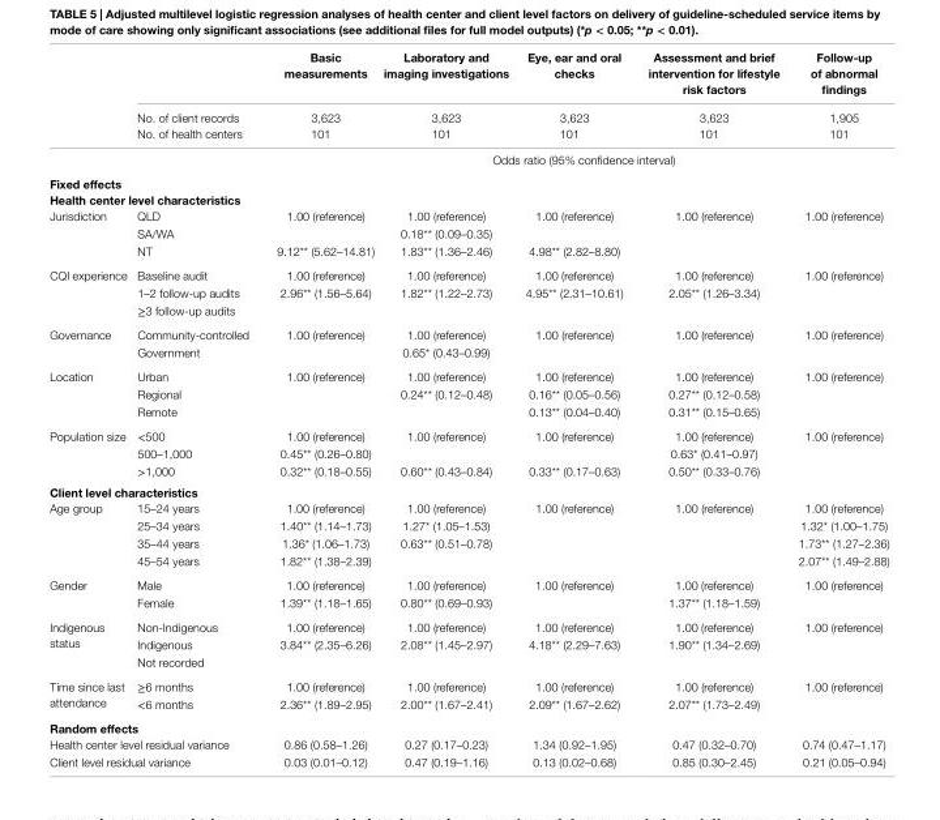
<table><thead><tr><td></td><td></td><td>Basic measurements</td><td>laboratory and imaging investigations</td><td>eye, ear and oral checks</td><td>assessment and brief intervention for lifestyle risk factors</td><td>Follow-up of abnormal findings</td></tr></thead><tbody><tr><td></td><td>No. of client records</td><td>3,623</td><td>3,623</td><td>3,623</td><td>3,623</td><td>1,905</td></tr><tr><td></td><td>No. of health centers</td><td>101</td><td>101</td><td>101</td><td>101</td><td>101</td></tr><tr><td colspan="2"></td><td colspan="5">Odds ratio (95% confidence interval)</td></tr><tr><td colspan="7">Fixed effects</td></tr><tr><td colspan="7">health center level characteristics</td></tr><tr><td rowspan="3">Jurisdiction</td><td>QLD</td><td>1.00 (reference)</td><td>1.00 (reference)</td><td>1.00 (reference)</td><td>1.00 (reference)</td><td>1.00 (reference)</td></tr><tr><td>SA/WA</td><td></td><td>0.18** (0.09–0.35)</td><td></td><td></td><td></td></tr><tr><td>NT</td><td>9.12** (5.62–14.81)</td><td>1.83** (1.36–2.46)</td><td>4.98** (2.82–8.80)</td><td></td><td></td></tr><tr><td rowspan="3">CQI experience</td><td>Baseline audit</td><td>1.00 (reference)</td><td>1.00 (reference)</td><td>1.00 (reference)</td><td>1.00 (reference)</td><td>1.00 (reference)</td></tr><tr><td>1–2 follow-up audits</td><td>2.96** (1.56–5.64)</td><td>1.82** (1.22–2.73)</td><td>4.95** (2.31–10.61)</td><td>2.05** (1.26–3.34)</td><td></td></tr><tr><td>≥3 follow-up audits</td><td></td><td></td><td></td><td></td><td></td></tr><tr><td rowspan="2">Governance</td><td>Community-controlled</td><td>1.00 (reference)</td><td>1.00 (reference)</td><td>1.00 (reference)</td><td>1.00 (reference)</td><td>1.00 (reference)</td></tr><tr><td>Government</td><td></td><td>0.65* (0.43–0.99)</td><td></td><td></td><td></td></tr><tr><td rowspan="3">Location</td><td>Urban</td><td>1.00 (reference)</td><td>1.00 (reference)</td><td>1.00 (reference)</td><td>1.00 (reference)</td><td>1.00 (reference)</td></tr><tr><td>Regional</td><td></td><td>0.24** (0.12–0.48)</td><td>0.16** (0.05–0.56)</td><td>0.27** (0.12–0.58)</td><td></td></tr><tr><td>Remote</td><td></td><td></td><td>0.13** (0.04–0.40)</td><td>0.31** (0.15–0.65)</td><td></td></tr><tr><td rowspan="3">Population size</td><td>&lt;500</td><td>1.00 (reference)</td><td>1.00 (reference)</td><td>1.00 (reference)</td><td>1.00 (reference)</td><td>1.00 (reference)</td></tr><tr><td>500–1,000</td><td>0.45** (0.26–0.80)</td><td></td><td></td><td>0.63* (0.41–0.97)</td><td></td></tr><tr><td>&gt;1,000</td><td>0.32** (0.18–0.55)</td><td>0.60** (0.43–0.84)</td><td>0.33** (0.17–0.63)</td><td>0.50** (0.33–0.76)</td><td></td></tr><tr><td colspan="7">client level characteristics</td></tr><tr><td rowspan="4">Age group</td><td>15–24 years</td><td>1.00 (reference)</td><td>1.00 (reference)</td><td>1.00 (reference)</td><td>1.00 (reference)</td><td>1.00 (reference)</td></tr><tr><td>25–34 years</td><td>1.40** (1.14–1.73)</td><td>1.27* (1.05–1.53)</td><td></td><td></td><td>1.32* (1.00–1.75)</td></tr><tr><td>35–44 years</td><td>1.36* (1.06–1.73)</td><td>0.63** (0.51–0.78)</td><td></td><td></td><td>1.73** (1.27–2.36)</td></tr><tr><td>45–54 years</td><td>1.82** (1.38–2.39)</td><td></td><td></td><td></td><td>2.07** (1.49–2.88)</td></tr><tr><td rowspan="2">Gender</td><td>Male</td><td>1.00 (reference)</td><td>1.00 (reference)</td><td>1.00 (reference)</td><td>1.00 (reference)</td><td>1.00 (reference)</td></tr><tr><td>Female</td><td>1.39** (1.18–1.65)</td><td>0.80** (0.69–0.93)</td><td></td><td>1.37** (1.18–1.59)</td><td></td></tr><tr><td rowspan="3">Indigenous status</td><td>Non-Indigenous</td><td>1.00 (reference)</td><td>1.00 (reference)</td><td>1.00 (reference)</td><td>1.00 (reference)</td><td>1.00 (reference)</td></tr><tr><td>Indigenous</td><td>3.84** (2.35–6.26)</td><td>2.08** (1.45–2.97)</td><td>4.18** (2.29–7.63)</td><td>1.90** (1.34–2.69)</td><td></td></tr><tr><td>Not recorded</td><td></td><td></td><td></td><td></td><td></td></tr><tr><td rowspan="2">Time since last attendance</td><td>≥6 months</td><td>1.00 (reference)</td><td>1.00 (reference)</td><td>1.00 (reference)</td><td>1.00 (reference)</td><td>1.00 (reference)</td></tr><tr><td>&lt;6 months</td><td>2.36** (1.89–2.95)</td><td>2.00** (1.67–2.41)</td><td>2.09** (1.67–2.62)</td><td>2.07** (1.73–2.49)</td><td></td></tr><tr><td colspan="7">random effects</td></tr><tr><td colspan="2">Health center level residual variance</td><td>0.86 (0.58–1.26)</td><td>0.27 (0.17–0.23)</td><td>1.34 (0.92–1.95)</td><td>0.47 (0.32–0.70)</td><td>0.74 (0.47–1.17)</td></tr><tr><td colspan="2">Client level residual variance</td><td>0.03 (0.01–0.12)</td><td>0.47 (0.19–1.16)</td><td>0.13 (0.02–0.68)</td><td>0.85 (0.30–2.45)</td><td>0.21 (0.05–0.94)</td></tr></tbody></table>